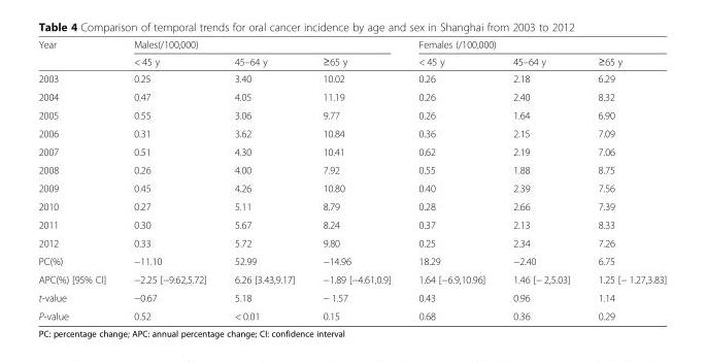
<table><thead><tr><td rowspan="2">Year</td><td colspan="3">Males(/100,000)</td><td colspan="3">Females (/100,000)</td></tr><tr><td>&lt; 45 y</td><td>45–64 y</td><td>≥65 y</td><td>&lt; 45 y</td><td>45–64 y</td><td>≥65 y</td></tr></thead><tbody><tr><td>2003</td><td>0.25</td><td>3.40</td><td>10.02</td><td>0.26</td><td>2.18</td><td>6.29</td></tr><tr><td>2004</td><td>0.47</td><td>4.05</td><td>11.19</td><td>0.26</td><td>2.40</td><td>8.32</td></tr><tr><td>2005</td><td>0.55</td><td>3.06</td><td>9.77</td><td>0.26</td><td>1.64</td><td>6.90</td></tr><tr><td>2006</td><td>0.31</td><td>3.62</td><td>10.84</td><td>0.36</td><td>2.15</td><td>7.09</td></tr><tr><td>2007</td><td>0.51</td><td>4.30</td><td>10.41</td><td>0.62</td><td>2.19</td><td>7.06</td></tr><tr><td>2008</td><td>0.26</td><td>4.00</td><td>7.92</td><td>0.55</td><td>1.88</td><td>8.75</td></tr><tr><td>2009</td><td>0.45</td><td>4.26</td><td>10.80</td><td>0.40</td><td>2.39</td><td>7.56</td></tr><tr><td>2010</td><td>0.27</td><td>5.11</td><td>8.79</td><td>0.28</td><td>2.66</td><td>7.39</td></tr><tr><td>2011</td><td>0.30</td><td>5.67</td><td>8.24</td><td>0.37</td><td>2.13</td><td>8.33</td></tr><tr><td>2012</td><td>0.33</td><td>5.72</td><td>9.80</td><td>0.25</td><td>2.34</td><td>7.26</td></tr><tr><td>PC(%)</td><td>−11.10</td><td>52.99</td><td>−14.96</td><td>18.29</td><td>−2.40</td><td>6.75</td></tr><tr><td>APC(%) [95% CI]</td><td>−2.25 [−9.62,5.72]</td><td>6.26 [3.43,9.17]</td><td>−1.89 [−4.61,0.9]</td><td>1.64 [−6.9,10.96]</td><td>1.46 [− 2,5.03]</td><td>1.25 [− 1.27,3.83]</td></tr><tr><td>t-value</td><td>−0.67</td><td>5.18</td><td>− 1.57</td><td>0.43</td><td>0.96</td><td>1.14</td></tr><tr><td>P-value</td><td>0.52</td><td>&lt; 0.01</td><td>0.15</td><td>0.68</td><td>0.36</td><td>0.29</td></tr></tbody></table>